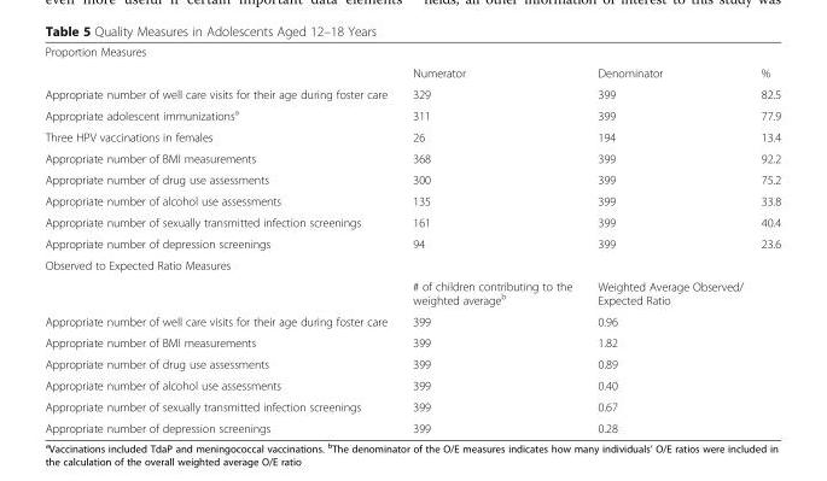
<table><tbody><tr><td colspan="4">Proportion Measures</td></tr><tr><td></td><td>Numerator</td><td>Denominator</td><td>%</td></tr><tr><td>Appropriate number of well care visits for their age during foster care</td><td>329</td><td>399</td><td>82.5</td></tr><tr><td>Appropriate adolescent immunizations<sup>a</sup></td><td>311</td><td>399</td><td>77.9</td></tr><tr><td>Three HPV vaccinations in females</td><td>26</td><td>194</td><td>13.4</td></tr><tr><td>Appropriate number of BMI measurements</td><td>368</td><td>399</td><td>92.2</td></tr><tr><td>Appropriate number of drug use assessments</td><td>300</td><td>399</td><td>75.2</td></tr><tr><td>Appropriate number of alcohol use assessments</td><td>135</td><td>399</td><td>33.8</td></tr><tr><td>Appropriate number of sexually transmitted infection screenings</td><td>161</td><td>399</td><td>40.4</td></tr><tr><td>Appropriate number of depression screenings</td><td>94</td><td>399</td><td>23.6</td></tr><tr><td colspan="4">Observed to Expected Ratio Measures</td></tr><tr><td></td><td># of children contributing to the weighted average<sup>b</sup></td><td colspan="2">Weighted Average Observed/ Expected Ratio</td></tr><tr><td>Appropriate number of well care visits for their age during foster care</td><td>399</td><td colspan="2">0.96</td></tr><tr><td>Appropriate number of BMI measurements</td><td>399</td><td colspan="2">1.82</td></tr><tr><td>Appropriate number of drug use assessments</td><td>399</td><td colspan="2">0.89</td></tr><tr><td>Appropriate number of alcohol use assessments</td><td>399</td><td colspan="2">0.40</td></tr><tr><td>Appropriate number of sexually transmitted infection screenings</td><td>399</td><td colspan="2">0.67</td></tr><tr><td>Appropriate number of depression screenings</td><td>399</td><td colspan="2">0.28</td></tr></tbody></table>